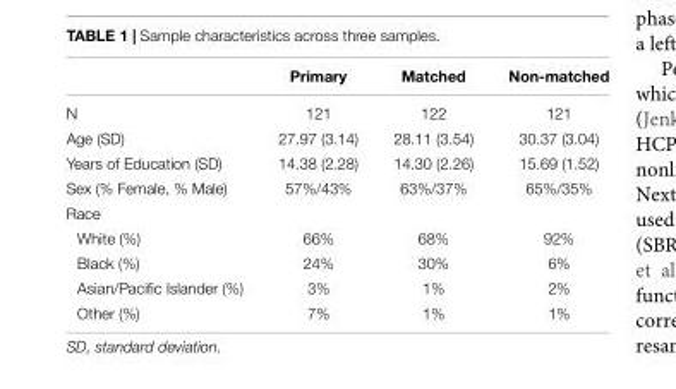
<table><thead><tr><td></td><td>Primary</td><td>Matched</td><td>Non-matched</td></tr></thead><tbody><tr><td>N</td><td>121</td><td>122</td><td>121</td></tr><tr><td>Age (SD)</td><td>27.97 (3.14)</td><td>28.11 (3.54)</td><td>30.37 (3.04)</td></tr><tr><td>Years of Education (SD)</td><td>14.38 (2.28)</td><td>14.30 (2.26)</td><td>15.69 (1.52)</td></tr><tr><td>Sex (% Female, % Male)</td><td>57%/43%</td><td>63%/37%</td><td>65%/35%</td></tr><tr><td colspan="4">Race</td></tr><tr><td>White (%)</td><td>66%</td><td>68%</td><td>92%</td></tr><tr><td>Black (%)</td><td>24%</td><td>30%</td><td>6%</td></tr><tr><td>Asian/Pacific Islander (%)</td><td>3%</td><td>1%</td><td>2%</td></tr><tr><td>Other (%)</td><td>7%</td><td>1%</td><td>1%</td></tr></tbody></table>